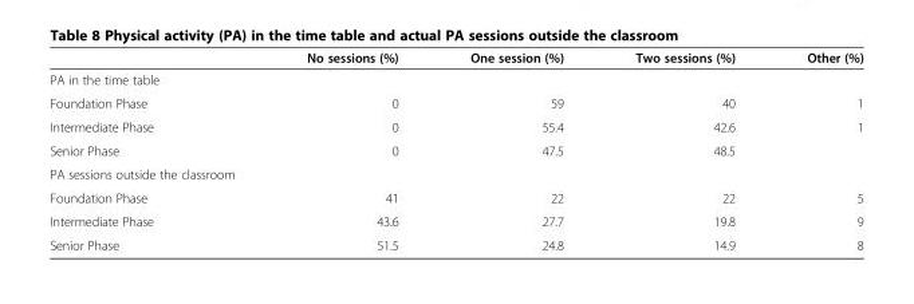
<table><thead><tr><td></td><td>No sessions (%)</td><td>One session (%)</td><td>Two sessions (%)</td><td>Other (%)</td></tr></thead><tbody><tr><td colspan="5">PA in the time table</td></tr><tr><td>Foundation Phase</td><td>0</td><td>59</td><td>40</td><td>1</td></tr><tr><td>Intermediate Phase</td><td>0</td><td>55.4</td><td>42.6</td><td>1</td></tr><tr><td>Senior Phase</td><td>0</td><td>47.5</td><td>48.5</td><td></td></tr><tr><td colspan="5">PA sessions outside the classroom</td></tr><tr><td>Foundation Phase</td><td>41</td><td>22</td><td>22</td><td>5</td></tr><tr><td>Intermediate Phase</td><td>43.6</td><td>27.7</td><td>19.8</td><td>9</td></tr><tr><td>Senior Phase</td><td>51.5</td><td>24.8</td><td>14.9</td><td>8</td></tr></tbody></table>